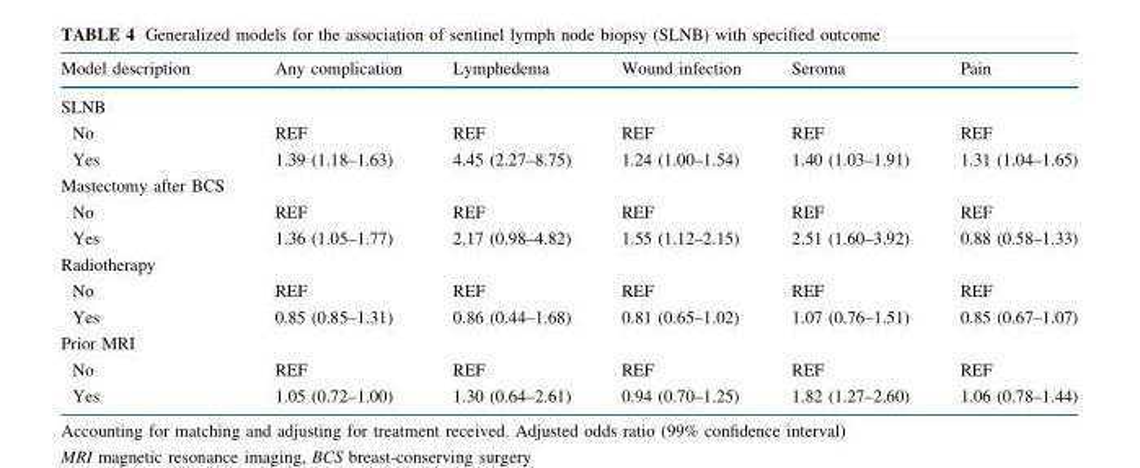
<table><thead><tr><td>Model description</td><td>Any complication</td><td>Lymphedema</td><td>Wound infection</td><td>Seroma</td><td>Pain</td></tr></thead><tbody><tr><td colspan="6">SLNB</td></tr><tr><td>No</td><td>REF</td><td>REF</td><td>REF</td><td>REF</td><td>REF</td></tr><tr><td>Yes</td><td>1.39 (1.18–1.63)</td><td>4.45 (2.27–8.75)</td><td>1.24 (1.00–1.54)</td><td>1.40 (1.03–1.91)</td><td>1.31 (1.04–1.65)</td></tr><tr><td colspan="6">Mastectomy after BCS</td></tr><tr><td>No</td><td>REF</td><td>REF</td><td>REF</td><td>REF</td><td>REF</td></tr><tr><td>Yes</td><td>1.36 (1.05–1.77)</td><td>2.17 (0.98–4.82)</td><td>1.55 (1.12–2.15)</td><td>2.51 (1.60–3.92)</td><td>0.88 (0.58–1.33)</td></tr><tr><td colspan="6">Radiotherapy</td></tr><tr><td>No</td><td>REF</td><td>REF</td><td>REF</td><td>REF</td><td>REF</td></tr><tr><td>Yes</td><td>0.85 (0.85–1.31)</td><td>0.86 (0.44–1.68)</td><td>0.81 (0.65–1.02)</td><td>1.07 (0.76–1.51)</td><td>0.85 (0.67–1.07)</td></tr><tr><td colspan="6">Prior MRI</td></tr><tr><td>No</td><td>REF</td><td>REF</td><td>REF</td><td>REF</td><td>REF</td></tr><tr><td>Yes</td><td>1.05 (0.72–1.00)</td><td>1.30 (0.64–2.61)</td><td>0.94 (0.70–1.25)</td><td>1.82 (1.27–2.60)</td><td>1.06 (0.78–1.44)</td></tr></tbody></table>